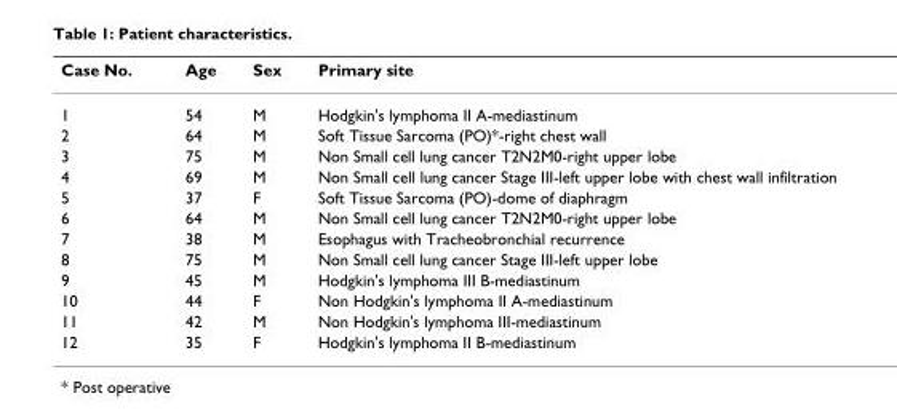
<table><thead><tr><td>Case No.</td><td>Age</td><td>Sex</td><td>Primary site</td></tr></thead><tbody><tr><td>1</td><td>54</td><td>M</td><td>Hodgkin&#x27;s lymphoma II A-mediastinum</td></tr><tr><td>2</td><td>64</td><td>M</td><td>Soft Tissue Sarcoma (PO)*-right chest wall</td></tr><tr><td>3</td><td>75</td><td>M</td><td>Non Small cell lung cancer T2N2M0-right upper lobe</td></tr><tr><td>4</td><td>69</td><td>M</td><td>Non Small cell lung cancer Stage III-left upper lobe with chest wall infiltration</td></tr><tr><td>5</td><td>37</td><td>F</td><td>Soft Tissue Sarcoma (PO)-dome of diaphragm</td></tr><tr><td>6</td><td>64</td><td>M</td><td>Non Small cell lung cancer T2N2M0-right upper lobe</td></tr><tr><td>7</td><td>38</td><td>M</td><td>Esophagus with Tracheobronchial recurrence</td></tr><tr><td>8</td><td>75</td><td>M</td><td>Non Small cell lung cancer Stage III-left upper lobe</td></tr><tr><td>9</td><td>45</td><td>M</td><td>Hodgkin&#x27;s lymphoma III B-mediastinum</td></tr><tr><td>10</td><td>44</td><td>F</td><td>Non Hodgkin&#x27;s lymphoma II A-mediastinum</td></tr><tr><td>11</td><td>42</td><td>M</td><td>Non Hodgkin&#x27;s lymphoma III-mediastinum</td></tr><tr><td>12</td><td>35</td><td>F</td><td>Hodgkin&#x27;s lymphoma II B-mediastinum</td></tr></tbody></table>